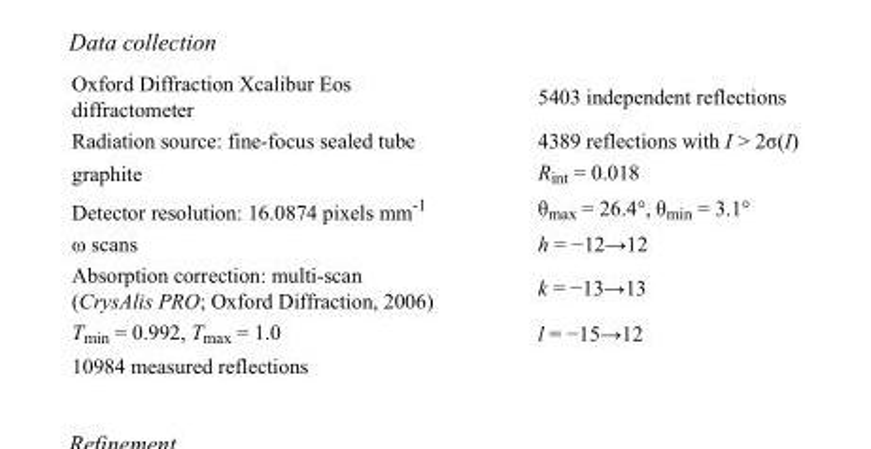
<table><tbody><tr><td>Oxford Diffraction Xcalibur Eos diffractometer</td><td>5403 independent reflections</td></tr><tr><td>Radiation source: fine-focus sealed tube</td><td>4389 reflections with I &gt; 2σ(I)</td></tr><tr><td>graphite</td><td>R<sub>int</sub> = 0.018</td></tr><tr><td>Detector resolution: 16.0874 pixels mm<sup>-1</sup></td><td>θ<sub>max</sub> = 26.4°, θ<sub>min</sub> = 3.1°</td></tr><tr><td>ω scans</td><td>h = −12→12</td></tr><tr><td>Absorption correction: multi-scan (CrysAlis PRO; Oxford Diffraction, 2006)</td><td>k = −13→13</td></tr><tr><td>T<sub>min</sub> = 0.992, T<sub>max</sub> = 1.0</td><td>l = −15→12</td></tr><tr><td>10984 measured reflections</td><td></td></tr></tbody></table>